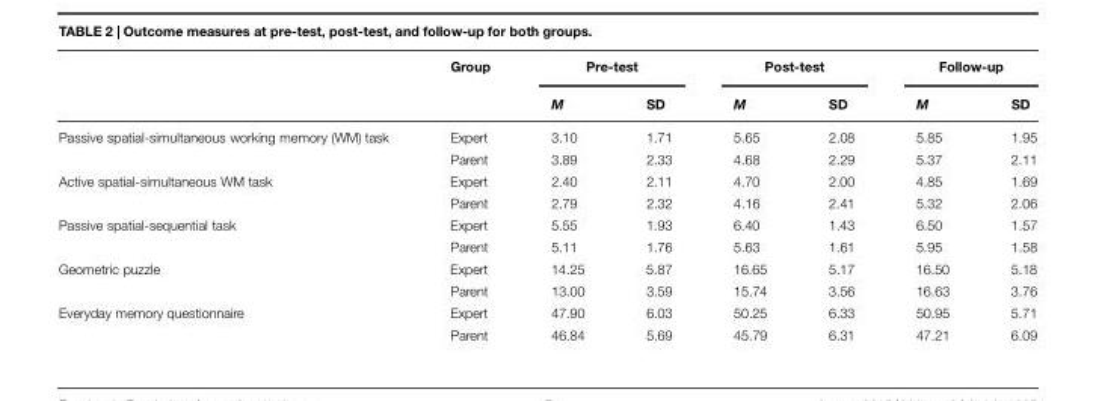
<table><thead><tr><td rowspan="2"></td><td rowspan="2">Group</td><td colspan="2">Pre-test</td><td colspan="2">Post-test</td><td colspan="2">Follow-up</td></tr><tr><td>M</td><td>SD</td><td>M</td><td>SD</td><td>M</td><td>SD</td></tr></thead><tbody><tr><td rowspan="2">Passive spatial-simultaneous working memory (WM) task</td><td>Expert</td><td>3.10</td><td>1.71</td><td>5.65</td><td>2.08</td><td>5.85</td><td>1.95</td></tr><tr><td>Parent</td><td>3.89</td><td>2.33</td><td>4.68</td><td>2.29</td><td>5.37</td><td>2.11</td></tr><tr><td rowspan="2">Active spatial-simultaneous WM task</td><td>Expert</td><td>2.40</td><td>2.11</td><td>4.70</td><td>2.00</td><td>4.85</td><td>1.69</td></tr><tr><td>Parent</td><td>2.79</td><td>2.32</td><td>4.16</td><td>2.41</td><td>5.32</td><td>2.06</td></tr><tr><td rowspan="2">Passive spatial-sequential task</td><td>Expert</td><td>5.55</td><td>1.93</td><td>6.40</td><td>1.43</td><td>6.50</td><td>1.57</td></tr><tr><td>Parent</td><td>5.11</td><td>1.76</td><td>5.63</td><td>1.61</td><td>5.95</td><td>1.58</td></tr><tr><td rowspan="2">Geometric puzzle</td><td>Expert</td><td>14.25</td><td>5.87</td><td>16.65</td><td>5.17</td><td>16.50</td><td>5.18</td></tr><tr><td>Parent</td><td>13.00</td><td>3.59</td><td>15.74</td><td>3.56</td><td>16.63</td><td>3.76</td></tr><tr><td rowspan="2">Everyday memory questionnaire</td><td>Expert</td><td>47.90</td><td>6.03</td><td>50.25</td><td>6.33</td><td>50.95</td><td>5.71</td></tr><tr><td>Parent</td><td>46.84</td><td>5.69</td><td>45.79</td><td>6.31</td><td>47.21</td><td>6.09</td></tr></tbody></table>